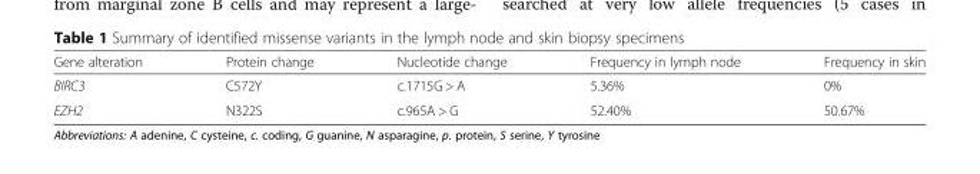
<table><thead><tr><td>Gene alteration</td><td>Protein change</td><td>Nucleotide change</td><td>Frequency in lymph node</td><td>Frequency in skin</td></tr></thead><tbody><tr><td>BIRC3</td><td>C572Y</td><td>c.1715G &gt; A</td><td>5.36%</td><td>0%</td></tr><tr><td>EZH2</td><td>N322S</td><td>c.965A &gt; G</td><td>52.40%</td><td>50.67%</td></tr></tbody></table>